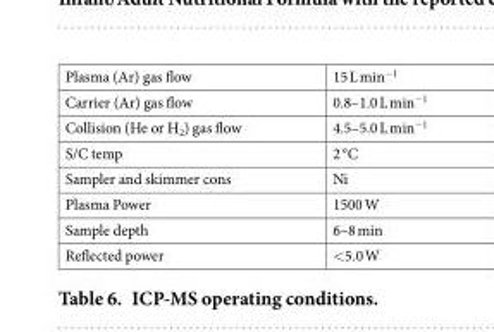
<table><tbody><tr><td>Plasma (Ar) gas flow</td><td>15 L min<sup>−1</sup></td></tr><tr><td>Carrier (Ar) gas flow</td><td>0.8–1.0 L min<sup>−1</sup></td></tr><tr><td>Collision (He or H<sub>2</sub>) gas flow</td><td>4.5–5.0 L min<sup>−1</sup></td></tr><tr><td>S/C temp</td><td>2 °C</td></tr><tr><td>Sampler and skimmer cons</td><td>Ni</td></tr><tr><td>Plasma Power</td><td>1500 W</td></tr><tr><td>Sample depth</td><td>6–8 min</td></tr><tr><td>Reflected power</td><td>&lt; 5.0 W</td></tr></tbody></table>